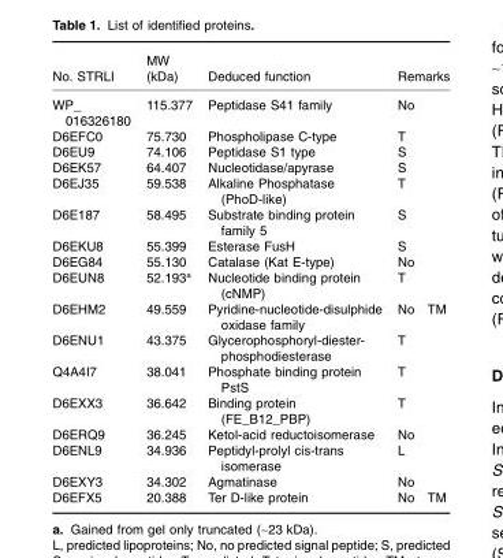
<table><thead><tr><td>No. STRLI</td><td>MW (kDa)</td><td>Deduced function</td><td>Remarks</td></tr></thead><tbody><tr><td>WP_ 016326180</td><td>115.377</td><td>Peptidase S41 family</td><td>No</td></tr><tr><td>D6EFC0</td><td>75.730</td><td>Phospholipase C-type</td><td>T</td></tr><tr><td>D6EU9</td><td>74.106</td><td>Peptidase S1 type</td><td>S</td></tr><tr><td>D6EK57</td><td>64.407</td><td>Nucleotidase/apyrase</td><td>S</td></tr><tr><td>D6EJ35</td><td>59.538</td><td>Alkaline Phosphatase (PhoD-like)</td><td>T</td></tr><tr><td>D6E187</td><td>58.495</td><td>Substrate binding protein family 5</td><td>S</td></tr><tr><td>D6EKU8</td><td>55.399</td><td>Esterase FusH</td><td>S</td></tr><tr><td>D6EG84</td><td>55.130</td><td>Catalase (Kat E-type)</td><td>No</td></tr><tr><td>D6EUN8</td><td>52.193<sup>a</sup></td><td>Nucleotide binding protein (cNMP)</td><td>T</td></tr><tr><td>D6EHM2</td><td>49.559</td><td>Pyridine-nucleotide-disulphide oxidase family</td><td>No TM</td></tr><tr><td>D6ENU1</td><td>43.375</td><td>Glycerophosphoryl-diester- phosphodiesterase</td><td>T</td></tr><tr><td>Q4A4I7</td><td>38.041</td><td>Phosphate binding protein PstS</td><td>T</td></tr><tr><td>D6EXX3</td><td>36.642</td><td>Binding protein (FE_B12_PBP)</td><td>T</td></tr><tr><td>D6ERQ9</td><td>36.245</td><td>Ketol-acid reductoisomerase</td><td>No</td></tr><tr><td>D6ENL9</td><td>34.936</td><td>Peptidyl-prolyl cis-trans isomerase</td><td>L</td></tr><tr><td>D6EXY3</td><td>34.302</td><td>Agmatinase</td><td>No</td></tr><tr><td>D6EFX5</td><td>20.388</td><td>Ter D-like protein</td><td>No TM</td></tr></tbody></table>